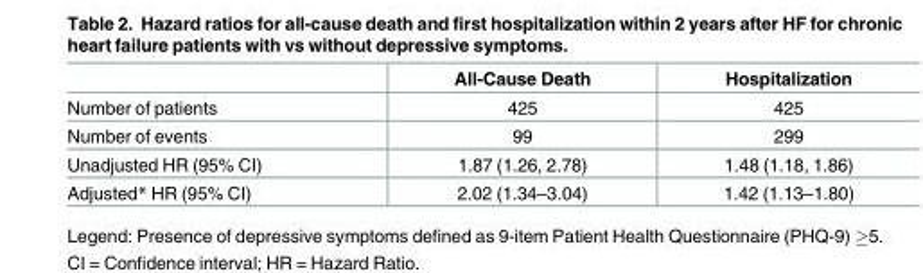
<table><thead><tr><td></td><td>All-Cause Death</td><td>Hospitalization</td></tr></thead><tbody><tr><td>Number of patients</td><td>425</td><td>425</td></tr><tr><td>Number of events</td><td>99</td><td>299</td></tr><tr><td>Unadjusted HR (95% CI)</td><td>1.87 (1.26, 2.78)</td><td>1.48 (1.18, 1.86)</td></tr><tr><td>Adjusted* HR (95% CI)</td><td>2.02 (1.34–3.04)</td><td>1.42 (1.13–1.80)</td></tr></tbody></table>